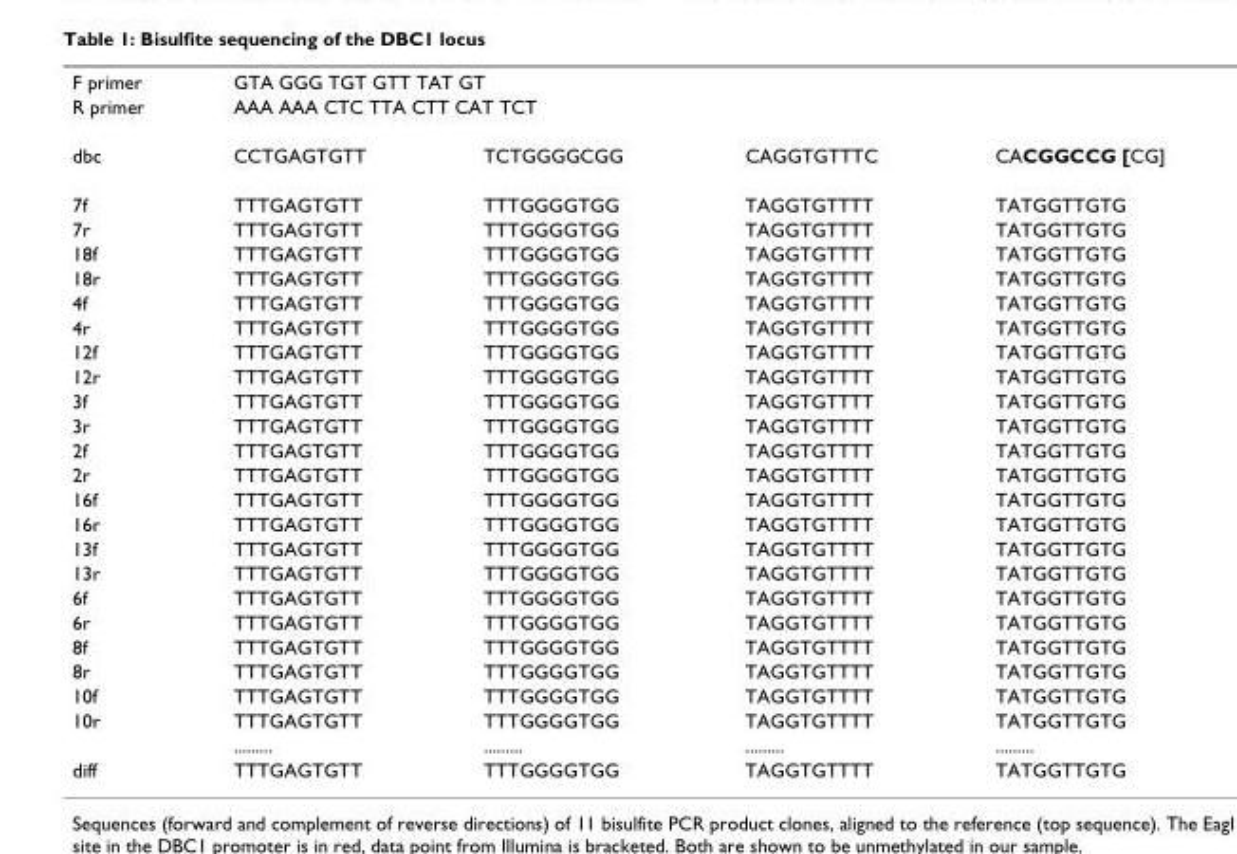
<table><tbody><tr><td>F primer</td><td colspan="4">GTA GGG TGT GTT TAT GT</td></tr><tr><td>R primer</td><td colspan="4">AAA AAA CTC TTA CTT CAT TCT</td></tr><tr><td>dbc</td><td>CCTGAGTGTT</td><td>TCTGGGGCGG</td><td>CAGGTGTTTC</td><td>CACGGCCG [CG]</td></tr><tr><td>7f</td><td>TTTGAGTGTT</td><td>TTTGGGGTGG</td><td>TAGGTGTTTT</td><td>TATGGTTGTG</td></tr><tr><td>7r</td><td>TTTGAGTGTT</td><td>TTTGGGGTGG</td><td>TAGGTGTTTT</td><td>TATGGTTGTG</td></tr><tr><td>18f</td><td>TTTGAGTGTT</td><td>TTTGGGGTGG</td><td>TAGGTGTTTT</td><td>TATGGTTGTG</td></tr><tr><td>18r</td><td>TTTGAGTGTT</td><td>TTTGGGGTGG</td><td>TAGGTGTTTT</td><td>TATGGTTGTG</td></tr><tr><td>4f</td><td>TTTGAGTGTT</td><td>TTTGGGGTGG</td><td>TAGGTGTTTT</td><td>TATGGTTGTG</td></tr><tr><td>4r</td><td>TTTGAGTGTT</td><td>TTTGGGGTGG</td><td>TAGGTGTTTT</td><td>TATGGTTGTG</td></tr><tr><td>12f</td><td>TTTGAGTGTT</td><td>TTTGGGGTGG</td><td>TAGGTGTTTT</td><td>TATGGTTGTG</td></tr><tr><td>12r</td><td>TTTGAGTGTT</td><td>TTTGGGGTGG</td><td>TAGGTGTTTT</td><td>TATGGTTGTG</td></tr><tr><td>3f</td><td>TTTGAGTGTT</td><td>TTTGGGGTGG</td><td>TAGGTGTTTT</td><td>TATGGTTGTG</td></tr><tr><td>3r</td><td>TTTGAGTGTT</td><td>TTTGGGGTGG</td><td>TAGGTGTTTT</td><td>TATGGTTGTG</td></tr><tr><td>2f</td><td>TTTGAGTGTT</td><td>TTTGGGGTGG</td><td>TAGGTGTTTT</td><td>TATGGTTGTG</td></tr><tr><td>2r</td><td>TTTGAGTGTT</td><td>TTTGGGGTGG</td><td>TAGGTGTTTT</td><td>TATGGTTGTG</td></tr><tr><td>16f</td><td>TTTGAGTGTT</td><td>TTTGGGGTGG</td><td>TAGGTGTTTT</td><td>TATGGTTGTG</td></tr><tr><td>16r</td><td>TTTGAGTGTT</td><td>TTTGGGGTGG</td><td>TAGGTGTTTT</td><td>TATGGTTGTG</td></tr><tr><td>13f</td><td>TTTGAGTGTT</td><td>TTTGGGGTGG</td><td>TAGGTGTTTT</td><td>TATGGTTGTG</td></tr><tr><td>13r</td><td>TTTGAGTGTT</td><td>TTTGGGGTGG</td><td>TAGGTGTTTT</td><td>TATGGTTGTG</td></tr><tr><td>6f</td><td>TTTGAGTGTT</td><td>TTTGGGGTGG</td><td>TAGGTGTTTT</td><td>TATGGTTGTG</td></tr><tr><td>6r</td><td>TTTGAGTGTT</td><td>TTTGGGGTGG</td><td>TAGGTGTTTT</td><td>TATGGTTGTG</td></tr><tr><td>8f</td><td>TTTGAGTGTT</td><td>TTTGGGGTGG</td><td>TAGGTGTTTT</td><td>TATGGTTGTG</td></tr><tr><td>8r</td><td>TTTGAGTGTT</td><td>TTTGGGGTGG</td><td>TAGGTGTTTT</td><td>TATGGTTGTG</td></tr><tr><td>10f</td><td>TTTGAGTGTT</td><td>TTTGGGGTGG</td><td>TAGGTGTTTT</td><td>TATGGTTGTG</td></tr><tr><td rowspan="2">10r</td><td>TTTGAGTGTT</td><td>TTTGGGGTGG</td><td>TAGGTGTTTT</td><td>TATGGTTGTG</td></tr><tr><td>.........</td><td>.........</td><td>.........</td><td>.........</td></tr><tr><td>diff</td><td>TTTGAGTGTT</td><td>TTTGGGGTGG</td><td>TAGGTGTTTT</td><td>TATGGTTGTG</td></tr></tbody></table>